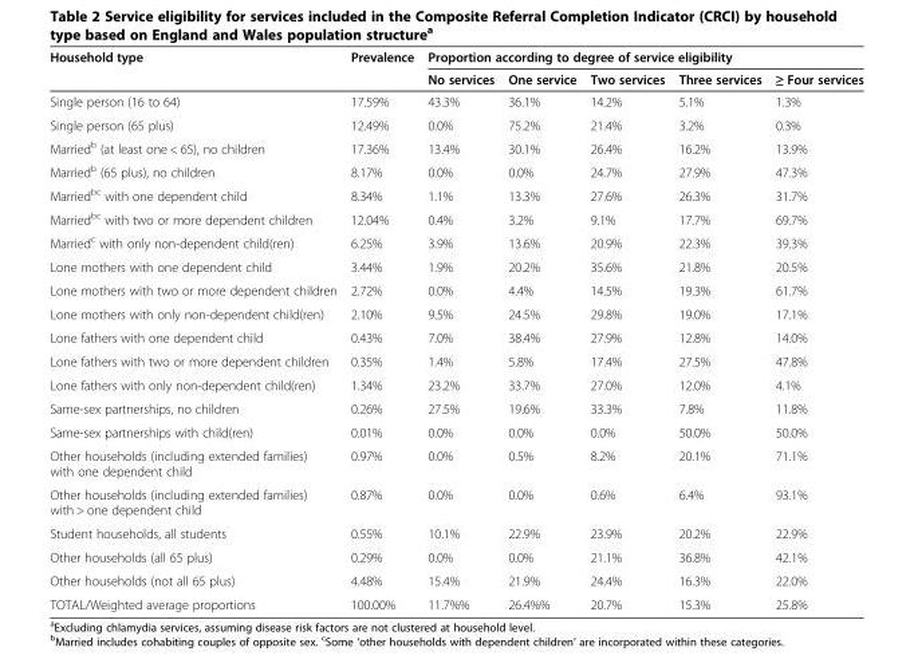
<table><thead><tr><td rowspan="2">Household type</td><td rowspan="2">Prevalence</td><td colspan="5">Proportion according to degree of service eligibility</td></tr><tr><td>No services</td><td>One service</td><td>Two services</td><td>Three services</td><td>≥ Four services</td></tr></thead><tbody><tr><td>Single person (16 to 64)</td><td>17.59%</td><td>43.3%</td><td>36.1%</td><td>14.2%</td><td>5.1%</td><td>1.3%</td></tr><tr><td>Single person (65 plus)</td><td>12.49%</td><td>0.0%</td><td>75.2%</td><td>21.4%</td><td>3.2%</td><td>0.3%</td></tr><tr><td>Married<sup>b</sup> (at least one &lt; 65), no children</td><td>17.36%</td><td>13.4%</td><td>30.1%</td><td>26.4%</td><td>16.2%</td><td>13.9%</td></tr><tr><td>Married<sup>b</sup> (65 plus), no children</td><td>8.17%</td><td>0.0%</td><td>0.0%</td><td>24.7%</td><td>27.9%</td><td>47.3%</td></tr><tr><td>Married<sup>bc</sup> with one dependent child</td><td>8.34%</td><td>1.1%</td><td>13.3%</td><td>27.6%</td><td>26.3%</td><td>31.7%</td></tr><tr><td>Married<sup>bc</sup> with two or more dependent children</td><td>12.04%</td><td>0.4%</td><td>3.2%</td><td>9.1%</td><td>17.7%</td><td>69.7%</td></tr><tr><td>Married<sup>c</sup> with only non-dependent child(ren)</td><td>6.25%</td><td>3.9%</td><td>13.6%</td><td>20.9%</td><td>22.3%</td><td>39.3%</td></tr><tr><td>Lone mothers with one dependent child</td><td>3.44%</td><td>1.9%</td><td>20.2%</td><td>35.6%</td><td>21.8%</td><td>20.5%</td></tr><tr><td>Lone mothers with two or more dependent children</td><td>2.72%</td><td>0.0%</td><td>4.4%</td><td>14.5%</td><td>19.3%</td><td>61.7%</td></tr><tr><td>Lone mothers with only non-dependent child(ren)</td><td>2.10%</td><td>9.5%</td><td>24.5%</td><td>29.8%</td><td>19.0%</td><td>17.1%</td></tr><tr><td>Lone fathers with one dependent child</td><td>0.43%</td><td>7.0%</td><td>38.4%</td><td>27.9%</td><td>12.8%</td><td>14.0%</td></tr><tr><td>Lone fathers with two or more dependent children</td><td>0.35%</td><td>1.4%</td><td>5.8%</td><td>17.4%</td><td>27.5%</td><td>47.8%</td></tr><tr><td>Lone fathers with only non-dependent child(ren)</td><td>1.34%</td><td>23.2%</td><td>33.7%</td><td>27.0%</td><td>12.0%</td><td>4.1%</td></tr><tr><td>Same-sex partnerships, no children</td><td>0.26%</td><td>27.5%</td><td>19.6%</td><td>33.3%</td><td>7.8%</td><td>11.8%</td></tr><tr><td>Same-sex partnerships with child(ren)</td><td>0.01%</td><td>0.0%</td><td>0.0%</td><td>0.0%</td><td>50.0%</td><td>50.0%</td></tr><tr><td>Other households (including extended families) with one dependent child</td><td>0.97%</td><td>0.0%</td><td>0.5%</td><td>8.2%</td><td>20.1%</td><td>71.1%</td></tr><tr><td>Other households (including extended families) with &gt; one dependent child</td><td>0.87%</td><td>0.0%</td><td>0.0%</td><td>0.6%</td><td>6.4%</td><td>93.1%</td></tr><tr><td>Student households, all students</td><td>0.55%</td><td>10.1%</td><td>22.9%</td><td>23.9%</td><td>20.2%</td><td>22.9%</td></tr><tr><td>Other households (all 65 plus)</td><td>0.29%</td><td>0.0%</td><td>0.0%</td><td>21.1%</td><td>36.8%</td><td>42.1%</td></tr><tr><td>Other households (not all 65 plus)</td><td>4.48%</td><td>15.4%</td><td>21.9%</td><td>24.4%</td><td>16.3%</td><td>22.0%</td></tr><tr><td>TOTAL/Weighted average proportions</td><td>100.00%</td><td>11.7%%</td><td>26.4%%</td><td>20.7%</td><td>15.3%</td><td>25.8%</td></tr></tbody></table>